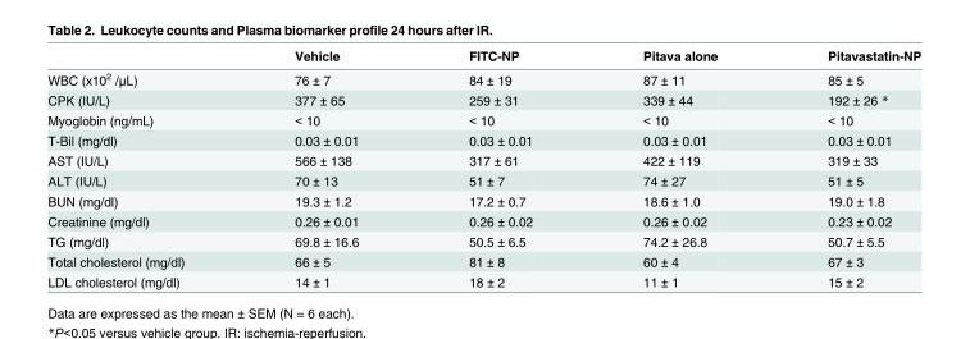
<table><thead><tr><td></td><td>Vehicle</td><td>FITC-NP</td><td>Pitava alone</td><td>Pitavastatin-NP</td></tr></thead><tbody><tr><td>WBC (x10<sup>2</sup> /μL)</td><td>76 ± 7</td><td>84 ± 19</td><td>87 ± 11</td><td>85 ± 5</td></tr><tr><td>CPK (IU/L)</td><td>377 ± 65</td><td>259 ± 31</td><td>339 ± 44</td><td>192 ± 26 *</td></tr><tr><td>Myoglobin (ng/mL)</td><td>&lt; 10</td><td>&lt; 10</td><td>&lt; 10</td><td>&lt; 10</td></tr><tr><td>T-Bil (mg/dl)</td><td>0.03 ± 0.01</td><td>0.03 ± 0.01</td><td>0.03 ± 0.01</td><td>0.03 ± 0.01</td></tr><tr><td>AST (IU/L)</td><td>566 ± 138</td><td>317 ± 61</td><td>422 ± 119</td><td>319 ± 33</td></tr><tr><td>ALT (IU/L)</td><td>70 ± 13</td><td>51 ± 7</td><td>74 ± 27</td><td>51 ± 5</td></tr><tr><td>BUN (mg/dl)</td><td>19.3 ± 1.2</td><td>17.2 ± 0.7</td><td>18.6 ± 1.0</td><td>19.0 ± 1.8</td></tr><tr><td>Creatinine (mg/dl)</td><td>0.26 ± 0.01</td><td>0.26 ± 0.02</td><td>0.26 ± 0.02</td><td>0.23 ± 0.02</td></tr><tr><td>TG (mg/dl)</td><td>69.8 ± 16.6</td><td>50.5 ± 6.5</td><td>74.2 ± 26.8</td><td>50.7 ± 5.5</td></tr><tr><td>Total cholesterol (mg/dl)</td><td>66 ± 5</td><td>81 ± 8</td><td>60 ± 4</td><td>67 ± 3</td></tr><tr><td>LDL cholesterol (mg/dl)</td><td>14 ± 1</td><td>18 ± 2</td><td>11 ± 1</td><td>15 ± 2</td></tr></tbody></table>